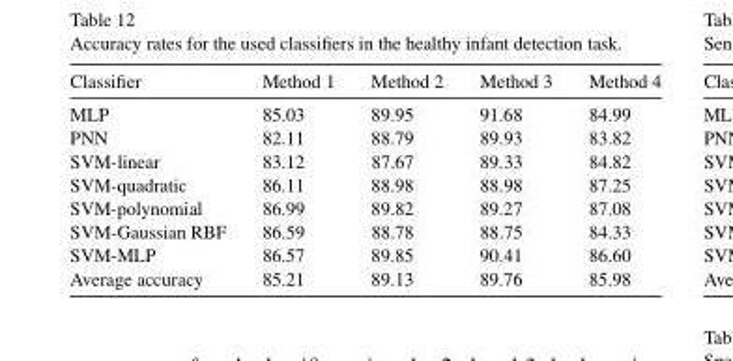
<table><thead><tr><td>Classifier</td><td>Method 1</td><td>Method 2</td><td>Method 3</td><td>Method 4</td></tr></thead><tbody><tr><td>MLP</td><td>85.03</td><td>89.95</td><td>91.68</td><td>84.99</td></tr><tr><td>PNN</td><td>82.11</td><td>88.79</td><td>89.93</td><td>83.82</td></tr><tr><td>SVM-linear</td><td>83.12</td><td>87.67</td><td>89.33</td><td>84.82</td></tr><tr><td>SVM-quadratic</td><td>86.11</td><td>88.98</td><td>88.98</td><td>87.25</td></tr><tr><td>SVM-polynomial</td><td>86.99</td><td>89.82</td><td>89.27</td><td>87.08</td></tr><tr><td>SVM-Gaussian RBF</td><td>86.59</td><td>88.78</td><td>88.75</td><td>84.33</td></tr><tr><td>SVM-MLP</td><td>86.57</td><td>89.85</td><td>90.41</td><td>86.60</td></tr><tr><td>Average accuracy</td><td>85.21</td><td>89.13</td><td>89.76</td><td>85.98</td></tr></tbody></table>